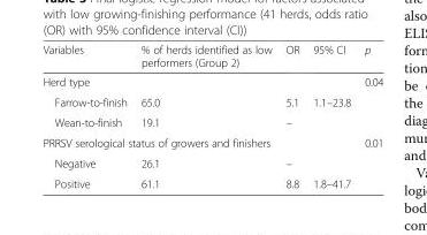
<table><thead><tr><td>Variables</td><td>% of herds identified as low performers (Group 2)</td><td>OR</td><td>95% CI</td><td>p</td></tr></thead><tbody><tr><td colspan="4">Herd type</td><td>0.04</td></tr><tr><td>Farrow-to-finish</td><td>65.0</td><td>5.1</td><td>1.1–23.8</td><td></td></tr><tr><td>Wean-to-finish</td><td>19.1</td><td>–</td><td></td><td></td></tr><tr><td colspan="4">PRRSV serological status of growers and finishers</td><td>0.01</td></tr><tr><td>Negative</td><td>26.1</td><td>–</td><td></td><td></td></tr><tr><td>Positive</td><td>61.1</td><td>8.8</td><td>1.8–41.7</td><td></td></tr></tbody></table>